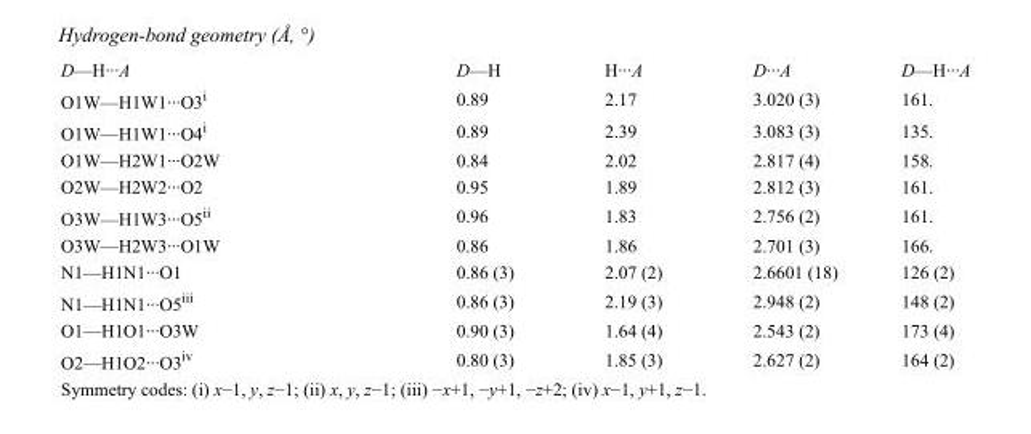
<table><tbody><tr><td>D—H···A</td><td>D—H</td><td>H···A</td><td>D···A</td><td>D—H···A</td></tr><tr><td>O1W—H1W1···O3<sup>i</sup></td><td>0.89</td><td>2.17</td><td>3.020 (3)</td><td>161.</td></tr><tr><td>O1W—H1W1···O4<sup>i</sup></td><td>0.89</td><td>2.39</td><td>3.083 (3)</td><td>135.</td></tr><tr><td>O1W—H2W1···O2W</td><td>0.84</td><td>2.02</td><td>2.817 (4)</td><td>158.</td></tr><tr><td>O2W—H2W2···O2</td><td>0.95</td><td>1.89</td><td>2.812 (3)</td><td>161.</td></tr><tr><td>O3W—H1W3···O5<sup>ii</sup></td><td>0.96</td><td>1.83</td><td>2.756 (2)</td><td>161.</td></tr><tr><td>O3W—H2W3···O1W</td><td>0.86</td><td>1.86</td><td>2.701 (3)</td><td>166.</td></tr><tr><td>N1—H1N1···O1</td><td>0.86 (3)</td><td>2.07 (2)</td><td>2.6601 (18)</td><td>126 (2)</td></tr><tr><td>N1—H1N1···O5<sup>iii</sup></td><td>0.86 (3)</td><td>2.19 (3)</td><td>2.948 (2)</td><td>148 (2)</td></tr><tr><td>O1—H1O1···O3W</td><td>0.90 (3)</td><td>1.64 (4)</td><td>2.543 (2)</td><td>173 (4)</td></tr><tr><td>O2—H1O2···O3<sup>iv</sup></td><td>0.80 (3)</td><td>1.85 (3)</td><td>2.627 (2)</td><td>164 (2)</td></tr></tbody></table>